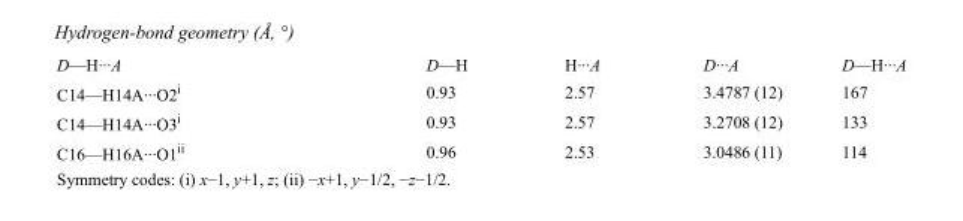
<table><tbody><tr><td>D—H···A</td><td>D—H</td><td>H···A</td><td>D···A</td><td>D—H···A</td></tr><tr><td>C14—H14A···O2<sup>i</sup></td><td>0.93</td><td>2.57</td><td>3.4787 (12)</td><td>167</td></tr><tr><td>C14—H14A···O3<sup>i</sup></td><td>0.93</td><td>2.57</td><td>3.2708 (12)</td><td>133</td></tr><tr><td>C16—H16A···O1<sup>ii</sup></td><td>0.96</td><td>2.53</td><td>3.0486 (11)</td><td>114</td></tr></tbody></table>